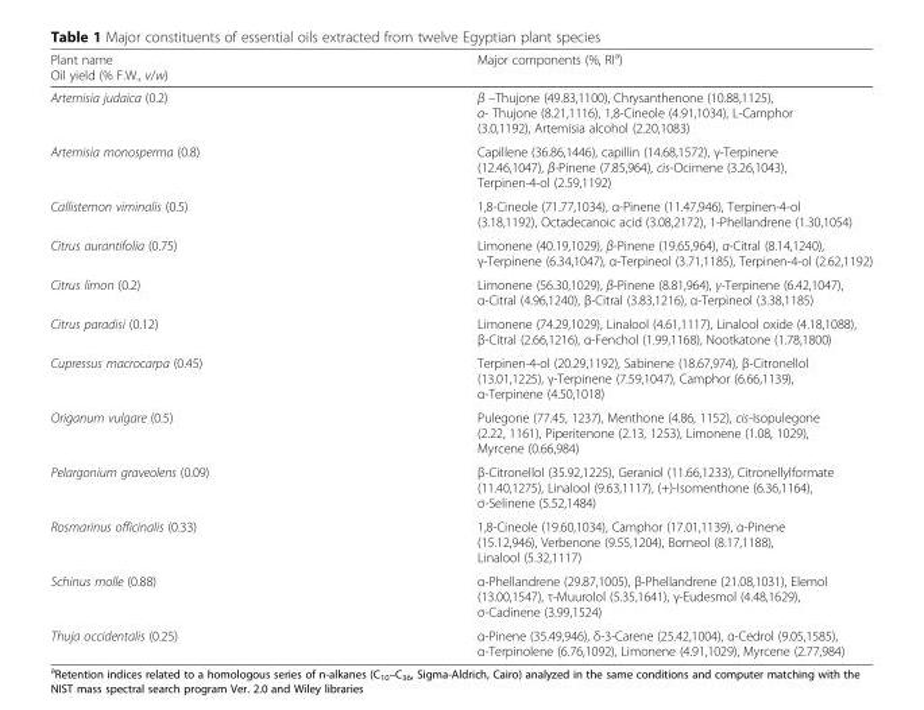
<table><thead><tr><td>Plant name Oil yield (% F.W., v/w)</td><td>Major components (%, RI<sup>a</sup>)</td></tr></thead><tbody><tr><td>Artemisia judaica (0.2)</td><td>β –Thujone (49.83,1100), Chrysanthenone (10.88,1125), α- Thujone (8.21,1116), 1,8-Cineole (4.91,1034), L-Camphor (3.0,1192), Artemisia alcohol (2.20,1083)</td></tr><tr><td>Artemisia monosperma (0.8)</td><td>Capillene (36.86,1446), capillin (14.68,1572), γ-Terpinene (12.46,1047), β-Pinene (7.85,964), cis-Ocimene (3.26,1043), Terpinen-4-ol (2.59,1192)</td></tr><tr><td>Callistemon viminalis (0.5)</td><td>1,8-Cineole (71.77,1034), α-Pinene (11.47,946), Terpinen-4-ol (3.18,1192), Octadecanoic acid (3.08,2172), 1-Phellandrene (1.30,1054)</td></tr><tr><td>Citrus aurantifolia (0.75)</td><td>Limonene (40.19,1029), β-Pinene (19.65,964), α-Citral (8.14,1240), γ-Terpinene (6.34,1047), α-Terpineol (3.71,1185), Terpinen-4-ol (2.62,1192)</td></tr><tr><td>Citrus limon (0.2)</td><td>Limonene (56.30,1029), β-Pinene (8.81,964), γ-Terpinene (6.42,1047), α-Citral (4.96,1240), β-Citral (3.83,1216), α-Terpineol (3.38,1185)</td></tr><tr><td>Citrus paradisi (0.12)</td><td>Limonene (74.29,1029), Linalool (4.61,1117), Linalool oxide (4.18,1088), β-Citral (2.66,1216), α-Fenchol (1.99,1168), Nootkatone (1.78,1800)</td></tr><tr><td>Cupressus macrocarpa (0.45)</td><td>Terpinen-4-ol (20.29,1192), Sabinene (18.67,974), β-Citronellol (13.01,1225), γ-Terpinene (7.59,1047), Camphor (6.66,1139), α-Terpinene (4.50,1018)</td></tr><tr><td>Origanum vulgare (0.5)</td><td>Pulegone (77.45, 1237), Menthone (4.86, 1152), cis-Isopulegone (2.22, 1161), Piperitenone (2.13, 1253), Limonene (1.08, 1029), Myrcene (0.66,984)</td></tr><tr><td>Pelargonium graveolens (0.09)</td><td>β-Citronellol (35.92,1225), Geraniol (11.66,1233), Citronellylformate (11.40,1275), Linalool (9.63,1117), (+)-Isomenthone (6.36,1164), σ-Selinene (5.52,1484)</td></tr><tr><td>Rosmarinus officinalis (0.33)</td><td>1,8-Cineole (19.60,1034), Camphor (17.01,1139), α-Pinene (15.12,946), Verbenone (9.55,1204), Borneol (8.17,1188), Linalool (5.32,1117)</td></tr><tr><td>Schinus molle (0.88)</td><td>α-Phellandrene (29.87,1005), β-Phellandrene (21.08,1031), Elemol (13.00,1547), τ-Muurolol (5.35,1641), γ-Eudesmol (4.48,1629), σ-Cadinene (3.99,1524)</td></tr><tr><td>Thuja occidentalis (0.25)</td><td>α-Pinene (35.49,946), δ-3-Carene (25.42,1004), α-Cedrol (9.05,1585), α-Terpinolene (6.76,1092), Limonene (4.91,1029), Myrcene (2.77,984)</td></tr></tbody></table>